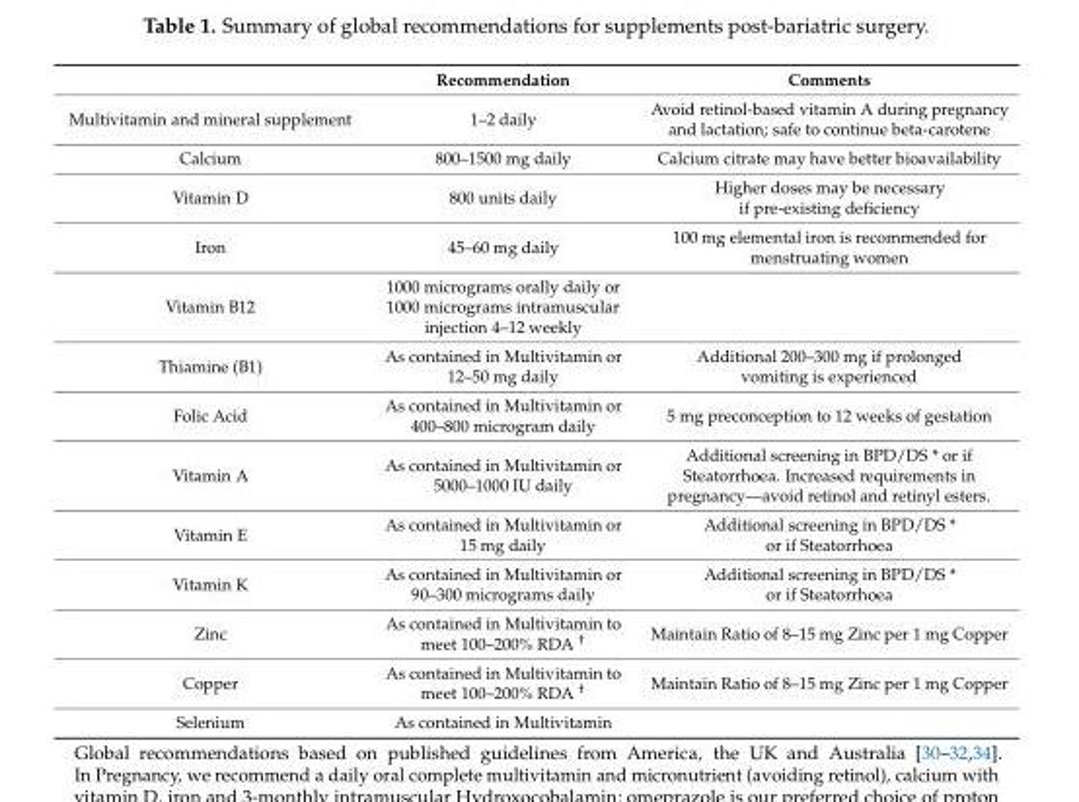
<table><thead><tr><td></td><td>Recommendation</td><td>Comments</td></tr></thead><tbody><tr><td>Multivitamin and mineral supplement</td><td>1–2 daily</td><td>Avoid retinol-based vitamin A during pregnancy and lactation; safe to continue beta-carotene</td></tr><tr><td>Calcium</td><td>800–1500 mg daily</td><td>Calcium citrate may have better bioavailability</td></tr><tr><td>Vitamin D</td><td>800 units daily</td><td>Higher doses may be necessary if pre-existing deficiency</td></tr><tr><td>Iron</td><td>45–60 mg daily</td><td>100 mg elemental iron is recommended for menstruating women</td></tr><tr><td>Vitamin B12</td><td>1000 micrograms orally daily or 1000 micrograms intramuscular injection 4–12 weekly</td><td></td></tr><tr><td>Thiamine (B1)</td><td>As contained in Multivitamin or 12–50 mg daily</td><td>Additional 200–300 mg if prolonged vomiting is experienced</td></tr><tr><td>Folic Acid</td><td>As contained in Multivitamin or 400–800 microgram daily</td><td>5 mg preconception to 12 weeks of gestation</td></tr><tr><td>Vitamin A</td><td>As contained in Multivitamin or 5000–1000 IU daily</td><td>Additional screening in BPD/DS * or if Steatorrhoea. Increased requirements in pregnancy—avoid retinol and retinyl esters.</td></tr><tr><td>Vitamin E</td><td>As contained in Multivitamin or 15 mg daily</td><td>Additional screening in BPD/DS * or if Steatorrhoea</td></tr><tr><td>Vitamin K</td><td>As contained in Multivitamin or 90–300 micrograms daily</td><td>Additional screening in BPD/DS * or if Steatorrhoea</td></tr><tr><td>Zinc</td><td>As contained in Multivitamin to meet 100–200% RDA <sup>†</sup></td><td>Maintain Ratio of 8–15 mg Zinc per 1 mg Copper</td></tr><tr><td>Copper</td><td>As contained in Multivitamin to meet 100–200% RDA <sup>†</sup></td><td>Maintain Ratio of 8–15 mg Zinc per 1 mg Copper</td></tr><tr><td>Selenium</td><td>As contained in Multivitamin</td><td></td></tr></tbody></table>